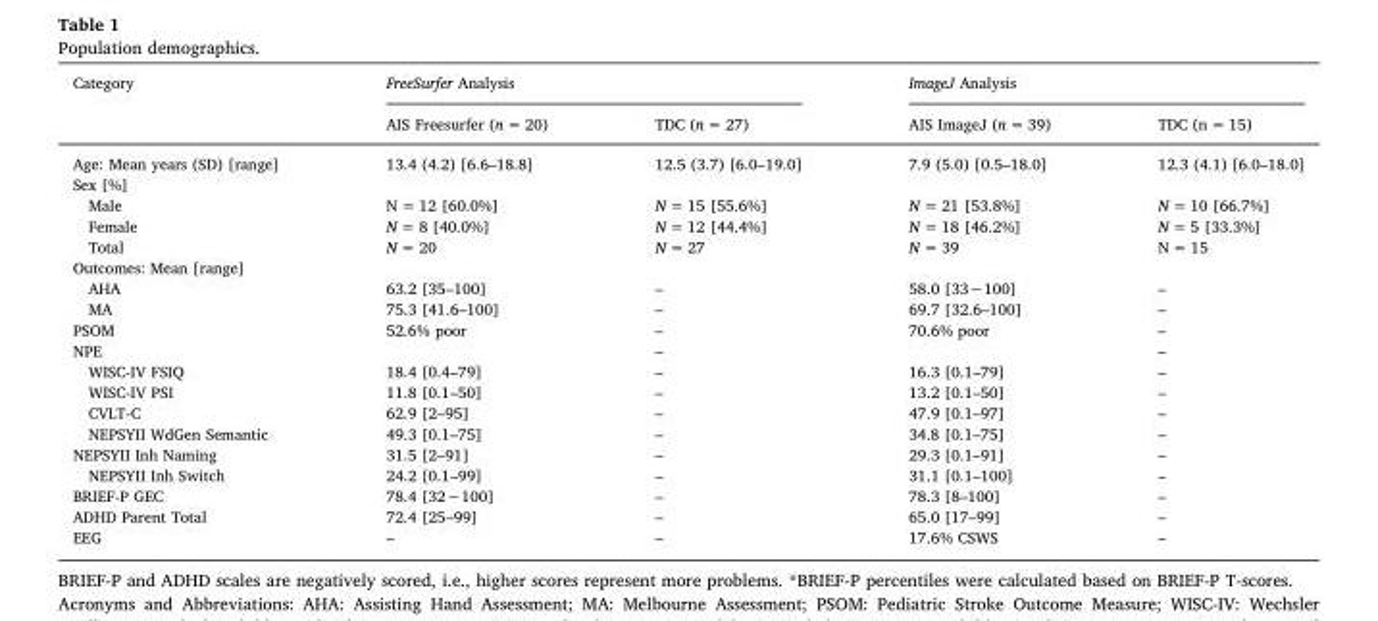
<table><thead><tr><td rowspan="2">Category</td><td colspan="2">FreeSurfer Analysis</td><td colspan="2">ImageJ Analysis</td></tr><tr><td>AIS Freesurfer (n = 20)</td><td>TDC (n = 27)</td><td>AIS ImageJ (n = 39)</td><td>TDC (n = 15)</td></tr></thead><tbody><tr><td>Age: Mean years (SD) [range]</td><td>13.4 (4.2) [6.6–18.8]</td><td>12.5 (3.7) [6.0–19.0]</td><td>7.9 (5.0) [0.5–18.0]</td><td>12.3 (4.1) [6.0–18.0]</td></tr><tr><td colspan="5">Sex [%]</td></tr><tr><td>Male</td><td>N = 12 [60.0%]</td><td>N = 15 [55.6%]</td><td>N = 21 [53.8%]</td><td>N = 10 [66.7%]</td></tr><tr><td>Female</td><td>N = 8 [40.0%]</td><td>N = 12 [44.4%]</td><td>N = 18 [46.2%]</td><td>N = 5 [33.3%]</td></tr><tr><td>Total</td><td>N = 20</td><td>N = 27</td><td>N = 39</td><td>N = 15</td></tr><tr><td colspan="5">Outcomes: Mean [range]</td></tr><tr><td>AHA</td><td>63.2 [35–100]</td><td>–</td><td>58.0 [33−100]</td><td>–</td></tr><tr><td>MA</td><td>75.3 [41.6–100]</td><td>–</td><td>69.7 [32.6–100]</td><td>–</td></tr><tr><td>PSOM</td><td>52.6% poor</td><td>–</td><td>70.6% poor</td><td>–</td></tr><tr><td>NPE</td><td></td><td>–</td><td></td><td>–</td></tr><tr><td>WISC-IV FSIQ</td><td>18.4 [0.4–79]</td><td>–</td><td>16.3 [0.1–79]</td><td>–</td></tr><tr><td>WISC-IV PSI</td><td>11.8 [0.1–50]</td><td>–</td><td>13.2 [0.1–50]</td><td>–</td></tr><tr><td>CVLT-C</td><td>62.9 [2–95]</td><td>–</td><td>47.9 [0.1–97]</td><td>–</td></tr><tr><td>NEPSYII WdGen Semantic</td><td>49.3 [0.1–75]</td><td>–</td><td>34.8 [0.1–75]</td><td>–</td></tr><tr><td>NEPSYII Inh Naming</td><td>31.5 [2–91]</td><td>–</td><td>29.3 [0.1–91]</td><td>–</td></tr><tr><td>NEPSYII Inh Switch</td><td>24.2 [0.1–99]</td><td>–</td><td>31.1 [0.1–100]</td><td>–</td></tr><tr><td>BRIEF-P GEC</td><td>78.4 [32−100]</td><td>–</td><td>78.3 [8–100]</td><td>–</td></tr><tr><td>ADHD Parent Total</td><td>72.4 [25–99]</td><td>–</td><td>65.0 [17–99]</td><td>–</td></tr><tr><td>EEG</td><td>–</td><td>–</td><td>17.6% CSWS</td><td>–</td></tr></tbody></table>